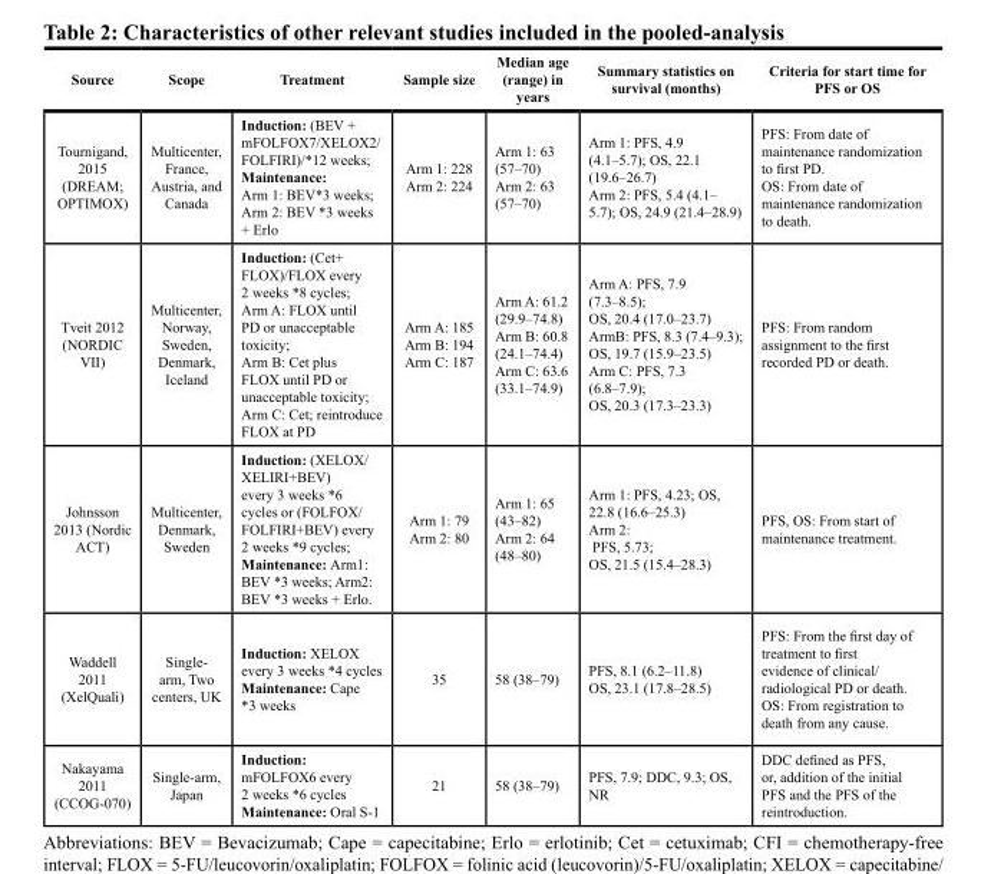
<table><thead><tr><td>Source</td><td>Scope</td><td>Treatment</td><td>Sample size</td><td>Median age (range) in years</td><td>Summary statistics on survival (months)</td><td>Criteria for start time for PFS or OS</td></tr></thead><tbody><tr><td>Tournigand, 2015 (DREAM; OPTIMOX)</td><td>Multicenter, France, Austria, and Canada</td><td>Induction: (BEV + mFOLFOX7/XELOX2/ FOLFIRI)/*12 weeks; Maintenance: Arm 1: BEV*3 weeks; Arm 2: BEV *3 weeks + Erlo</td><td>Arm 1: 228 Arm 2: 224</td><td>Arm 1: 63 (57–70) Arm 2: 63 (57–70)</td><td>Arm 1: PFS, 4.9 (4.1–5.7); OS, 22.1 (19.6–26.7) Arm 2: PFS, 5.4 (4.1– 5.7); OS, 24.9 (21.4–28.9)</td><td>PFS: From date of maintenance randomization to first PD. OS: From date of maintenance randomization to death.</td></tr><tr><td>Tveit 2012 (NORDIC VII)</td><td>Multicenter, Norway, Sweden, Denmark, Iceland</td><td>Induction: (Cet+ FLOX)/FLOX every 2 weeks *8 cycles; Arm A: FLOX until PD or unacceptable toxicity; Arm B: Cet plus FLOX until PD or unacceptable toxicity; Arm C: Cet; reintroduce FLOX at PD</td><td>Arm A: 185 Arm B: 194 Arm C: 187</td><td>Arm A: 61.2 (29.9–74.8) Arm B: 60.8 (24.1–74.4) Arm C: 63.6 (33.1–74.9)</td><td>Arm A: PFS, 7.9 (7.3–8.5); OS, 20.4 (17.0–23.7) ArmB: PFS, 8.3 (7.4–9.3); OS, 19.7 (15.9–23.5) Arm C: PFS, 7.3 (6.8–7.9); OS, 20.3 (17.3–23.3)</td><td>PFS: From random assignment to the first recorded PD or death.</td></tr><tr><td>Johnsson 2013 (Nordic ACT)</td><td>Multicenter, Denmark, Sweden</td><td>Induction: (XELOX/ XELIRI+BEV) every 3 weeks *6 cycles or (FOLFOX/ FOLFIRI+BEV) every 2 weeks *9 cycles; Maintenance: Arm1: BEV *3 weeks; Arm2: BEV *3 weeks + Erlo.</td><td>Arm 1: 79 Arm 2: 80</td><td>Arm 1: 65 (43–82) Arm 2: 64 (48–80)</td><td>Arm 1: PFS, 4.23; OS, 22.8 (16.6–25.3) Arm 2: PFS, 5.73; OS, 21.5 (15.4–28.3)</td><td>PFS, OS: From start of maintenance treatment.</td></tr><tr><td>Waddell 2011 (XelQuali)</td><td>Single- arm, Two centers, UK</td><td>Induction: XELOX every 3 weeks *4 cycles Maintenance: Cape *3 weeks</td><td>35</td><td>58 (38–79)</td><td>PFS, 8.1 (6.2–11.8) OS, 23.1 (17.8–28.5)</td><td>PFS: From the first day of treatment to first evidence of clinical/ radiological PD or death. OS: From registration to death from any cause.</td></tr><tr><td>Nakayama 2011 (CCOG-070)</td><td>Single-arm, Japan</td><td>Induction: mFOLFOX6 every 2 weeks *6 cycles Maintenance: Oral S-1</td><td>21</td><td>58 (38–79)</td><td>PFS, 7.9; DDC, 9.3; OS, NR</td><td>DDC defined as PFS, or, addition of the initial PFS and the PFS of the reintroduction.</td></tr></tbody></table>